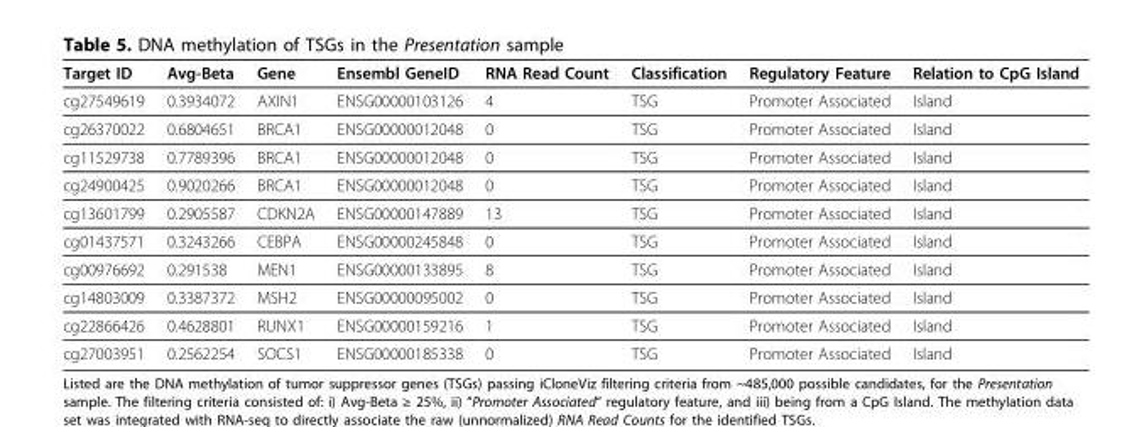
<table><thead><tr><td>Target ID</td><td>Avg-Beta</td><td>Gene</td><td>Ensembl GeneID</td><td>RNA Read Count</td><td>Classification</td><td>Regulatory Feature</td><td>Relation to CpG Island</td></tr></thead><tbody><tr><td>cg27549619</td><td>0.3934072</td><td>AXIN1</td><td>ENSG00000103126</td><td>4</td><td>TSG</td><td>Promoter Associated</td><td>Island</td></tr><tr><td>cg26370022</td><td>0.6804651</td><td>BRCA1</td><td>ENSG00000012048</td><td>0</td><td>TSG</td><td>Promoter Associated</td><td>Island</td></tr><tr><td>cg11529738</td><td>0.7789396</td><td>BRCA1</td><td>ENSG00000012048</td><td>0</td><td>TSG</td><td>Promoter Associated</td><td>Island</td></tr><tr><td>cg24900425</td><td>0.9020266</td><td>BRCA1</td><td>ENSG00000012048</td><td>0</td><td>TSG</td><td>Promoter Associated</td><td>Island</td></tr><tr><td>cg13601799</td><td>0.2905587</td><td>CDKN2A</td><td>ENSG00000147889</td><td>13</td><td>TSG</td><td>Promoter Associated</td><td>Island</td></tr><tr><td>cg01437571</td><td>0.3243266</td><td>CEBPA</td><td>ENSG00000245848</td><td>0</td><td>TSG</td><td>Promoter Associated</td><td>Island</td></tr><tr><td>cg00976692</td><td>0.291538</td><td>MEN1</td><td>ENSG00000133895</td><td>8</td><td>TSG</td><td>Promoter Associated</td><td>Island</td></tr><tr><td>cg14803009</td><td>0.3387372</td><td>MSH2</td><td>ENSG00000095002</td><td>0</td><td>TSG</td><td>Promoter Associated</td><td>Island</td></tr><tr><td>cg22866426</td><td>0.4628801</td><td>RUNX1</td><td>ENSG00000159216</td><td>1</td><td>TSG</td><td>Promoter Associated</td><td>Island</td></tr><tr><td>cg27003951</td><td>0.2562254</td><td>SOCS1</td><td>ENSG00000185338</td><td>0</td><td>TSG</td><td>Promoter Associated</td><td>Island</td></tr></tbody></table>